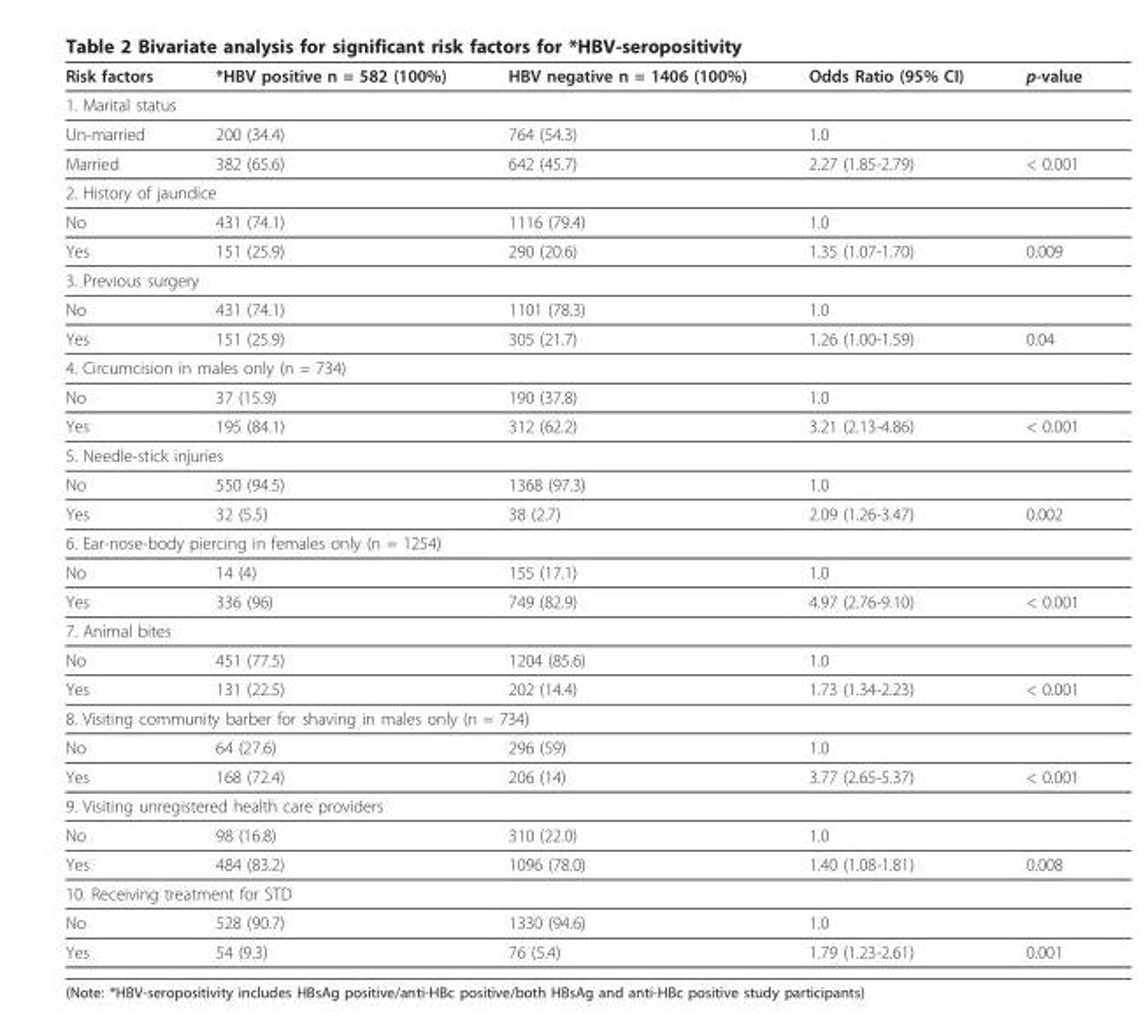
<table><thead><tr><td>Risk factors</td><td>*HBV positive n = 582 (100%)</td><td>HBV negative n = 1406 (100%)</td><td>Odds Ratio (95% CI)</td><td>p-value</td></tr></thead><tbody><tr><td colspan="5">1. Marital status</td></tr><tr><td>Un-married</td><td>200 (34.4)</td><td>764 (54.3)</td><td>1.0</td><td></td></tr><tr><td>Married</td><td>382 (65.6)</td><td>642 (45.7)</td><td>2.27 (1.85-2.79)</td><td>&lt; 0.001</td></tr><tr><td colspan="5">2. History of jaundice</td></tr><tr><td>No</td><td>431 (74.1)</td><td>1116 (79.4)</td><td>1.0</td><td></td></tr><tr><td>Yes</td><td>151 (25.9)</td><td>290 (20.6)</td><td>1.35 (1.07-1.70)</td><td>0.009</td></tr><tr><td colspan="5">3. Previous surgery</td></tr><tr><td>No</td><td>431 (74.1)</td><td>1101 (78.3)</td><td>1.0</td><td></td></tr><tr><td>Yes</td><td>151 (25.9)</td><td>305 (21.7)</td><td>1.26 (1.00-1.59)</td><td>0.04</td></tr><tr><td colspan="5">4. Circumcision in males only (n = 734)</td></tr><tr><td>No</td><td>37 (15.9)</td><td>190 (37.8)</td><td>1.0</td><td></td></tr><tr><td>Yes</td><td>195 (84.1)</td><td>312 (62.2)</td><td>3.21 (2.13-4.86)</td><td>&lt; 0.001</td></tr><tr><td colspan="5">5. Needle-stick injuries</td></tr><tr><td>No</td><td>550 (94.5)</td><td>1368 (97.3)</td><td>1.0</td><td></td></tr><tr><td>Yes</td><td>32 (5.5)</td><td>38 (2.7)</td><td>2.09 (1.26-3.47)</td><td>0.002</td></tr><tr><td colspan="5">6. Ear-nose-body piercing in females only (n = 1254)</td></tr><tr><td>No</td><td>14 (4)</td><td>155 (17.1)</td><td>1.0</td><td></td></tr><tr><td>Yes</td><td>336 (96)</td><td>749 (82.9)</td><td>4.97 (2.76-9.10)</td><td>&lt; 0.001</td></tr><tr><td colspan="5">7. Animal bites</td></tr><tr><td>No</td><td>451 (77.5)</td><td>1204 (85.6)</td><td>1.0</td><td></td></tr><tr><td>Yes</td><td>131 (22.5)</td><td>202 (14.4)</td><td>1.73 (1.34-2.23)</td><td>&lt; 0.001</td></tr><tr><td colspan="5">8. Visiting community barber for shaving in males only (n = 734)</td></tr><tr><td>No</td><td>64 (27.6)</td><td>296 (59)</td><td>1.0</td><td></td></tr><tr><td>Yes</td><td>168 (72.4)</td><td>206 (14)</td><td>3.77 (2.65-5.37)</td><td>&lt; 0.001</td></tr><tr><td colspan="5">9. Visiting unregistered health care providers</td></tr><tr><td>No</td><td>98 (16.8)</td><td>310 (22.0)</td><td>1.0</td><td></td></tr><tr><td>Yes</td><td>484 (83.2)</td><td>1096 (78.0)</td><td>1.40 (1.08-1.81)</td><td>0.008</td></tr><tr><td colspan="5">10. Receiving treatment for STD</td></tr><tr><td>No</td><td>528 (90.7)</td><td>1330 (94.6)</td><td>1.0</td><td></td></tr><tr><td>Yes</td><td>54 (9.3)</td><td>76 (5.4)</td><td>1.79 (1.23-2.61)</td><td>0.001</td></tr></tbody></table>